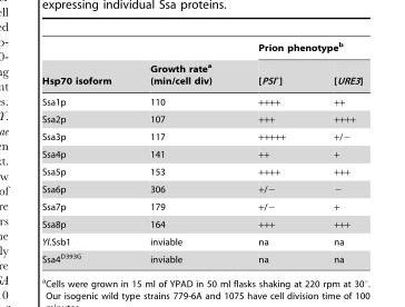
<table><thead><tr><td rowspan="2">Hsp70 isoform</td><td rowspan="2">Growth rate<sup>a</sup> (min/cell div)</td><td colspan="2">Prion phenotype<sup>b</sup></td></tr><tr><td>[PSI<sup>+</sup>]</td><td>[URE3]</td></tr></thead><tbody><tr><td>Ssa1p</td><td>110</td><td>++++</td><td>++</td></tr><tr><td>Ssa2p</td><td>107</td><td>+++</td><td>++++</td></tr><tr><td>Ssa3p</td><td>117</td><td>+++++</td><td>+/−</td></tr><tr><td>Ssa4p</td><td>141</td><td>++</td><td>+</td></tr><tr><td>Ssa5p</td><td>153</td><td>++++</td><td>+++</td></tr><tr><td>Ssa6p</td><td>306</td><td>+/−</td><td>−</td></tr><tr><td>Ssa7p</td><td>179</td><td>+/−</td><td>+</td></tr><tr><td>Ssa8p</td><td>164</td><td>+++</td><td>+++</td></tr><tr><td>Yl.Ssb1</td><td>inviable</td><td>na</td><td>na</td></tr><tr><td>Ssa4<sup>D393G</sup></td><td>inviable</td><td>na</td><td>na</td></tr></tbody></table>